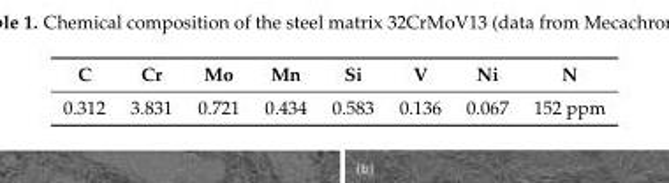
<table><thead><tr><td>C</td><td>Cr</td><td>Mo</td><td>Mn</td><td>Si</td><td>V</td><td>Ni</td><td>N</td></tr></thead><tbody><tr><td>0.312</td><td>3.831</td><td>0.721</td><td>0.434</td><td>0.583</td><td>0.136</td><td>0.067</td><td>152 ppm</td></tr></tbody></table>